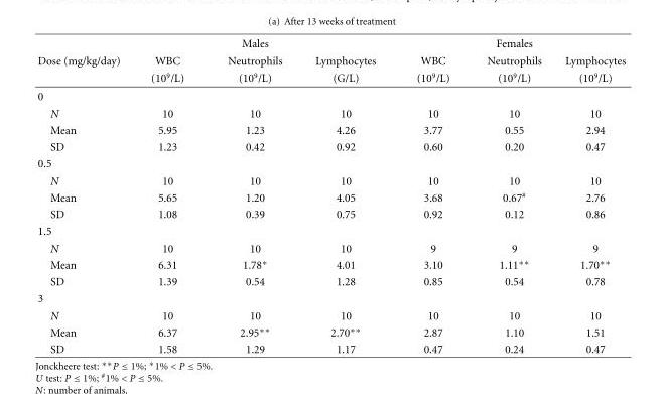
<table><thead><tr><td rowspan="3">Dose (mg/kg/day)</td><td rowspan="3">WBC (10<sup>9</sup>/L)</td><td rowspan="3">Males Neutrophils (10<sup>9</sup>/L)</td><td rowspan="3">Lymphocytes (G/L)</td><td rowspan="3">WBC (10<sup>9</sup>/L)</td><td rowspan="3">Females Neutrophils (10<sup>9</sup>/L)</td><td rowspan="3">Lymphocytes (10<sup>9</sup>/L)</td></tr><tr></tr><tr></tr></thead><tbody><tr><td colspan="7">0</td></tr><tr><td>N</td><td>10</td><td>10</td><td>10</td><td>10</td><td>10</td><td>10</td></tr><tr><td>Mean</td><td>5.95</td><td>1.23</td><td>4.26</td><td>3.77</td><td>0.55</td><td>2.94</td></tr><tr><td>SD</td><td>1.23</td><td>0.42</td><td>0.92</td><td>0.60</td><td>0.20</td><td>0.47</td></tr><tr><td colspan="7">0.5</td></tr><tr><td>N</td><td>10</td><td>10</td><td>10</td><td>10</td><td>10</td><td>10</td></tr><tr><td>Mean</td><td>5.65</td><td>1.20</td><td>4.05</td><td>3.68</td><td>0.67<sup>#</sup></td><td>2.76</td></tr><tr><td>SD</td><td>1.08</td><td>0.39</td><td>0.75</td><td>0.92</td><td>0.12</td><td>0.86</td></tr><tr><td colspan="7">1.5</td></tr><tr><td>N</td><td>10</td><td>10</td><td>10</td><td>9</td><td>9</td><td>9</td></tr><tr><td>Mean</td><td>6.31</td><td>1.78∗</td><td>4.01</td><td>3.10</td><td>1.11∗∗</td><td>1.70∗∗</td></tr><tr><td>SD</td><td>1.39</td><td>0.54</td><td>1.28</td><td>0.85</td><td>0.54</td><td>0.78</td></tr><tr><td colspan="7">3</td></tr><tr><td>N</td><td>10</td><td>10</td><td>10</td><td>10</td><td>10</td><td>10</td></tr><tr><td>Mean</td><td>6.37</td><td>2.95∗∗</td><td>2.70∗∗</td><td>2.87</td><td>1.10</td><td>1.51</td></tr><tr><td>SD</td><td>1.58</td><td>1.29</td><td>1.17</td><td>0.47</td><td>0.24</td><td>0.47</td></tr></tbody></table>